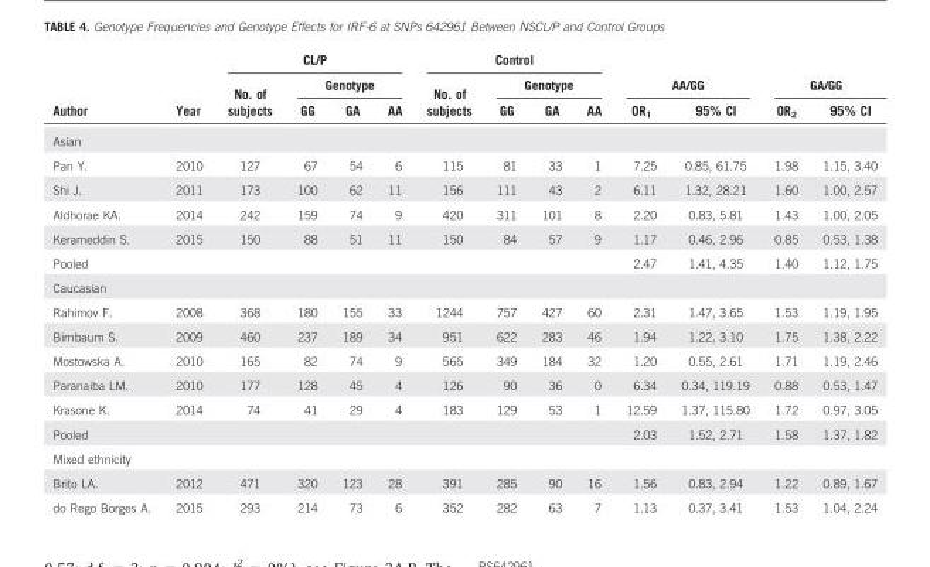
<table><thead><tr><td rowspan="3">Author</td><td rowspan="3">Year</td><td colspan="4">CL/P</td><td colspan="4">Control</td><td></td><td></td><td></td><td></td></tr><tr><td rowspan="2">No. of subjects</td><td colspan="3">Genotype</td><td rowspan="2">No. of subjects</td><td colspan="3">Genotype</td><td colspan="2">AA/GG</td><td colspan="2">GA/GG</td></tr><tr><td>GG</td><td>GA</td><td>AA</td><td>GG</td><td>GA</td><td>AA</td><td>OR<sub>1</sub></td><td>95% CI</td><td>OR<sub>2</sub></td><td>95% CI</td></tr></thead><tbody><tr><td colspan="14">Asian</td></tr><tr><td>Pan Y.</td><td>2010</td><td>127</td><td>67</td><td>54</td><td>6</td><td>115</td><td>81</td><td>33</td><td>1</td><td>7.25</td><td>0.85, 61.75</td><td>1.98</td><td>1.15, 3.40</td></tr><tr><td>Shi J.</td><td>2011</td><td>173</td><td>100</td><td>62</td><td>11</td><td>156</td><td>111</td><td>43</td><td>2</td><td>6.11</td><td>1.32, 28.21</td><td>1.60</td><td>1.00, 2.57</td></tr><tr><td>Aldhorae KA.</td><td>2014</td><td>242</td><td>159</td><td>74</td><td>9</td><td>420</td><td>311</td><td>101</td><td>8</td><td>2.20</td><td>0.83, 5.81</td><td>1.43</td><td>1.00, 2.05</td></tr><tr><td>Kerameddin S.</td><td>2015</td><td>150</td><td>88</td><td>51</td><td>11</td><td>150</td><td>84</td><td>57</td><td>9</td><td>1.17</td><td>0.46, 2.96</td><td>0.85</td><td>0.53, 1.38</td></tr><tr><td>Pooled</td><td></td><td></td><td></td><td></td><td></td><td></td><td></td><td></td><td></td><td>2.47</td><td>1.41, 4.35</td><td>1.40</td><td>1.12, 1.75</td></tr><tr><td colspan="14">Caucasian</td></tr><tr><td>Rahimov F.</td><td>2008</td><td>368</td><td>180</td><td>155</td><td>33</td><td>1244</td><td>757</td><td>427</td><td>60</td><td>2.31</td><td>1.47, 3.65</td><td>1.53</td><td>1.19, 1.95</td></tr><tr><td>Birnbaum S.</td><td>2009</td><td>460</td><td>237</td><td>189</td><td>34</td><td>951</td><td>622</td><td>283</td><td>46</td><td>1.94</td><td>1.22, 3.10</td><td>1.75</td><td>1.38, 2.22</td></tr><tr><td>Mostowska A.</td><td>2010</td><td>165</td><td>82</td><td>74</td><td>9</td><td>565</td><td>349</td><td>184</td><td>32</td><td>1.20</td><td>0.55, 2.61</td><td>1.71</td><td>1.19, 2.46</td></tr><tr><td>Paranaiba LM.</td><td>2010</td><td>177</td><td>128</td><td>45</td><td>4</td><td>126</td><td>90</td><td>36</td><td>0</td><td>6.34</td><td>0.34, 119.19</td><td>0.88</td><td>0.53, 1.47</td></tr><tr><td>Krasone K.</td><td>2014</td><td>74</td><td>41</td><td>29</td><td>4</td><td>183</td><td>129</td><td>53</td><td>1</td><td>12.59</td><td>1.37, 115.80</td><td>1.72</td><td>0.97, 3.05</td></tr><tr><td>Pooled</td><td></td><td></td><td></td><td></td><td></td><td></td><td></td><td></td><td></td><td>2.03</td><td>1.52, 2.71</td><td>1.58</td><td>1.37, 1.82</td></tr><tr><td colspan="14">Mixed ethnicity</td></tr><tr><td>Brito LA.</td><td>2012</td><td>471</td><td>320</td><td>123</td><td>28</td><td>391</td><td>285</td><td>90</td><td>16</td><td>1.56</td><td>0.83, 2.94</td><td>1.22</td><td>0.89, 1.67</td></tr><tr><td>do Rego Borges A.</td><td>2015</td><td>293</td><td>214</td><td>73</td><td>6</td><td>352</td><td>282</td><td>63</td><td>7</td><td>1.13</td><td>0.37, 3.41</td><td>1.53</td><td>1.04, 2.24</td></tr></tbody></table>